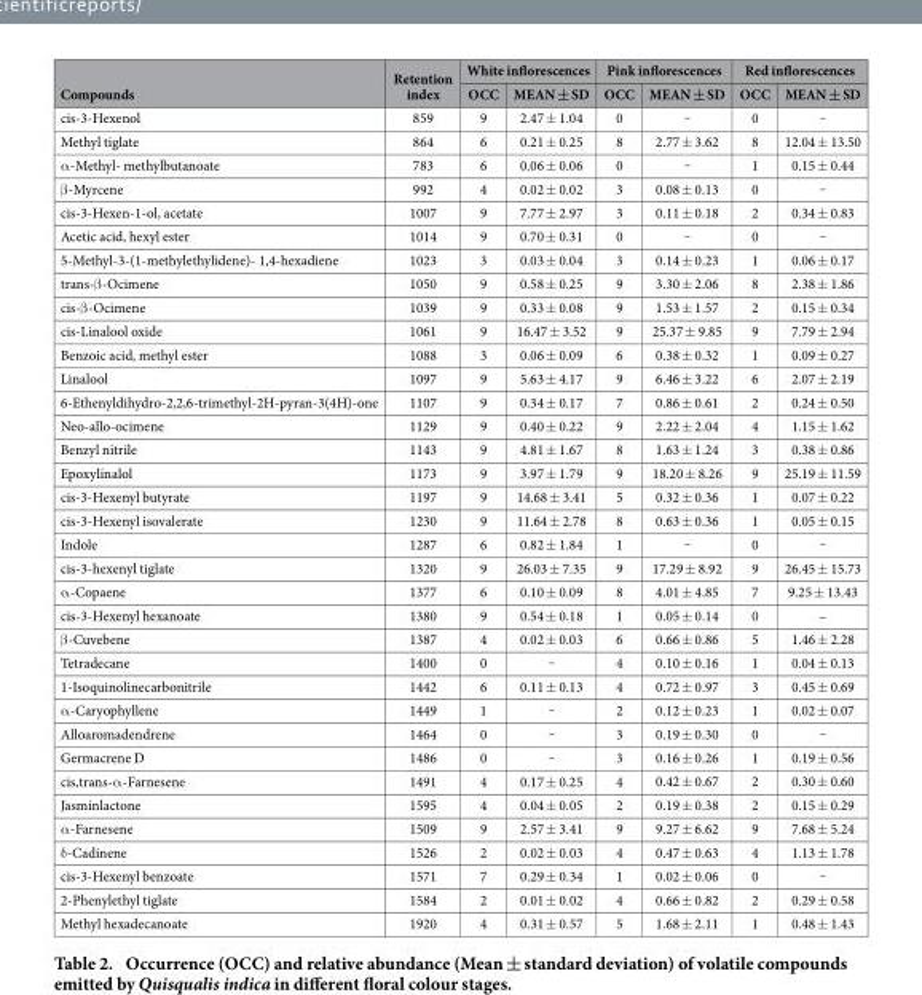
<table><thead><tr><td rowspan="2">Compounds</td><td rowspan="2">Retention index</td><td colspan="2">White inflorescences</td><td colspan="2">Pink inflorescences</td><td colspan="2">Red inflorescences</td></tr><tr><td>OCC</td><td>MEAN ± SD</td><td>OCC</td><td>MEAN ± SD</td><td>OCC</td><td>MEAN ± SD</td></tr></thead><tbody><tr><td>cis-3-Hexenol</td><td>859</td><td>9</td><td>2.47 ± 1.04</td><td>0</td><td>‒</td><td>0</td><td>‒</td></tr><tr><td>Methyl tiglate</td><td>864</td><td>6</td><td>0.21 ± 0.25</td><td>8</td><td>2.77 ± 3.62</td><td>8</td><td>12.04 ± 13.50</td></tr><tr><td>α -Methyl- methylbutanoate</td><td>783</td><td>6</td><td>0.06 ± 0.06</td><td>0</td><td>‒</td><td>1</td><td>0.15 ± 0.44</td></tr><tr><td>β -Myrcene</td><td>992</td><td>4</td><td>0.02 ± 0.02</td><td>3</td><td>0.08 ± 0.13</td><td>0</td><td>‒</td></tr><tr><td>cis-3-Hexen-1-ol, acetate</td><td>1007</td><td>9</td><td>7.77 ± 2.97</td><td>3</td><td>0.11 ± 0.18</td><td>2</td><td>0.34 ± 0.83</td></tr><tr><td>Acetic acid, hexyl ester</td><td>1014</td><td>9</td><td>0.70 ± 0.31</td><td>0</td><td>‒</td><td>0</td><td>‒</td></tr><tr><td>5-Methyl-3-(1-methylethylidene)- 1,4-hexadiene</td><td>1023</td><td>3</td><td>0.03 ± 0.04</td><td>3</td><td>0.14 ± 0.23</td><td>1</td><td>0.06 ± 0.17</td></tr><tr><td>trans-β -Ocimene</td><td>1050</td><td>9</td><td>0.58 ± 0.25</td><td>9</td><td>3.30 ± 2.06</td><td>8</td><td>2.38 ± 1.86</td></tr><tr><td>cis-β -Ocimene</td><td>1039</td><td>9</td><td>0.33 ± 0.08</td><td>9</td><td>1.53 ± 1.57</td><td>2</td><td>0.15 ± 0.34</td></tr><tr><td>cis-Linalool oxide</td><td>1061</td><td>9</td><td>16.47 ± 3.52</td><td>9</td><td>25.37 ± 9.85</td><td>9</td><td>7.79 ± 2.94</td></tr><tr><td>Benzoic acid, methyl ester</td><td>1088</td><td>3</td><td>0.06 ± 0.09</td><td>6</td><td>0.38 ± 0.32</td><td>1</td><td>0.09 ± 0.27</td></tr><tr><td>Linalool</td><td>1097</td><td>9</td><td>5.63 ± 4.17</td><td>9</td><td>6.46 ± 3.22</td><td>6</td><td>2.07 ± 2.19</td></tr><tr><td>6-Ethenyldihydro-2,2,6-trimethyl-2H-pyran-3(4H)-one</td><td>1107</td><td>9</td><td>0.34 ± 0.17</td><td>7</td><td>0.86 ± 0.61</td><td>2</td><td>0.24 ± 0.50</td></tr><tr><td>Neo-allo-ocimene</td><td>1129</td><td>9</td><td>0.40 ± 0.22</td><td>9</td><td>2.22 ± 2.04</td><td>4</td><td>1.15 ± 1.62</td></tr><tr><td>Benzyl nitrile</td><td>1143</td><td>9</td><td>4.81 ± 1.67</td><td>8</td><td>1.63 ± 1.24</td><td>3</td><td>0.38 ± 0.86</td></tr><tr><td>Epoxylinalol</td><td>1173</td><td>9</td><td>3.97 ± 1.79</td><td>9</td><td>18.20 ± 8.26</td><td>9</td><td>25.19 ± 11.59</td></tr><tr><td>cis-3-Hexenyl butyrate</td><td>1197</td><td>9</td><td>14.68 ± 3.41</td><td>5</td><td>0.32 ± 0.36</td><td>1</td><td>0.07 ± 0.22</td></tr><tr><td>cis-3-Hexenyl isovalerate</td><td>1230</td><td>9</td><td>11.64 ± 2.78</td><td>8</td><td>0.63 ± 0.36</td><td>1</td><td>0.05 ± 0.15</td></tr><tr><td>Indole</td><td>1287</td><td>6</td><td>0.82 ± 1.84</td><td>1</td><td>‒</td><td>0</td><td>‒</td></tr><tr><td>cis-3-hexenyl tiglate</td><td>1320</td><td>9</td><td>26.03 ± 7.35</td><td>9</td><td>17.29 ± 8.92</td><td>9</td><td>26.45 ± 15.73</td></tr><tr><td>α -Copaene</td><td>1377</td><td>6</td><td>0.10 ± 0.09</td><td>8</td><td>4.01 ± 4.85</td><td>7</td><td>9.25 ± 13.43</td></tr><tr><td>cis-3-Hexenyl hexanoate</td><td>1380</td><td>9</td><td>0.54 ± 0.18</td><td>1</td><td>0.05 ± 0.14</td><td>0</td><td>–</td></tr><tr><td>β -Cuvebene</td><td>1387</td><td>4</td><td>0.02 ± 0.03</td><td>6</td><td>0.66 ± 0.86</td><td>5</td><td>1.46 ± 2.28</td></tr><tr><td>Tetradecane</td><td>1400</td><td>0</td><td>‒</td><td>4</td><td>0.10 ± 0.16</td><td>1</td><td>0.04 ± 0.13</td></tr><tr><td>1-Isoquinolinecarbonitrile</td><td>1442</td><td>6</td><td>0.11 ± 0.13</td><td>4</td><td>0.72 ± 0.97</td><td>3</td><td>0.45 ± 0.69</td></tr><tr><td>α -Caryophyllene</td><td>1449</td><td>1</td><td>‒</td><td>2</td><td>0.12 ± 0.23</td><td>1</td><td>0.02 ± 0.07</td></tr><tr><td>Alloaromadendrene</td><td>1464</td><td>0</td><td>‒</td><td>3</td><td>0.19 ± 0.30</td><td>0</td><td>‒</td></tr><tr><td>Germacrene D</td><td>1486</td><td>0</td><td>‒</td><td>3</td><td>0.16 ± 0.26</td><td>1</td><td>0.19 ± 0.56</td></tr><tr><td>cis,trans-α -Farnesene</td><td>1491</td><td>4</td><td>0.17 ± 0.25</td><td>4</td><td>0.42 ± 0.67</td><td>2</td><td>0.30 ± 0.60</td></tr><tr><td>Jasminlactone</td><td>1595</td><td>4</td><td>0.04 ± 0.05</td><td>2</td><td>0.19 ± 0.38</td><td>2</td><td>0.15 ± 0.29</td></tr><tr><td>α -Farnesene</td><td>1509</td><td>9</td><td>2.57 ± 3.41</td><td>9</td><td>9.27 ± 6.62</td><td>9</td><td>7.68 ± 5.24</td></tr><tr><td>δ -Cadinene</td><td>1526</td><td>2</td><td>0.02 ± 0.03</td><td>4</td><td>0.47 ± 0.63</td><td>4</td><td>1.13 ± 1.78</td></tr><tr><td>cis-3-Hexenyl benzoate</td><td>1571</td><td>7</td><td>0.29 ± 0.34</td><td>1</td><td>0.02 ± 0.06</td><td>0</td><td>‒</td></tr><tr><td>2-Phenylethyl tiglate</td><td>1584</td><td>2</td><td>0.01 ± 0.02</td><td>4</td><td>0.66 ± 0.82</td><td>2</td><td>0.29 ± 0.58</td></tr><tr><td>Methyl hexadecanoate</td><td>1920</td><td>4</td><td>0.31 ± 0.57</td><td>5</td><td>1.68 ± 2.11</td><td>1</td><td>0.48 ± 1.43</td></tr></tbody></table>